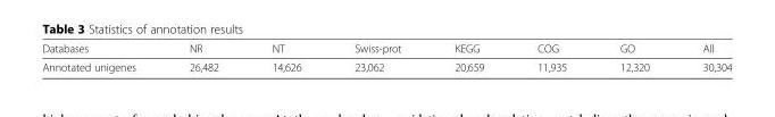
<table><thead><tr><td>Databases</td><td>NR</td><td>NT</td><td>Swiss-prot</td><td>KEGG</td><td>COG</td><td>GO</td><td>All</td></tr></thead><tbody><tr><td>Annotated unigenes</td><td>26,482</td><td>14,626</td><td>23,062</td><td>20,659</td><td>11,935</td><td>12,320</td><td>30,304</td></tr></tbody></table>